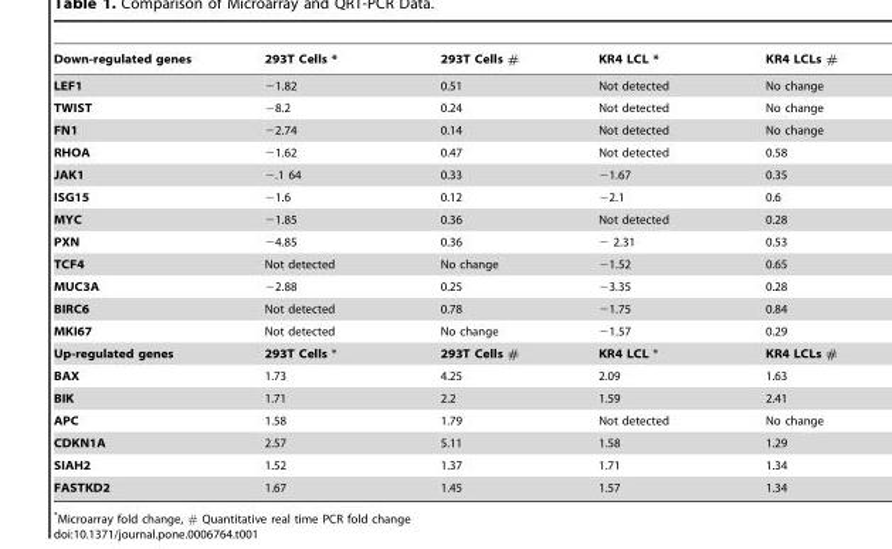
<table><thead><tr><td>Down-regulated genes</td><td>293T Cells *</td><td>293T Cells #</td><td>KR4 LCL *</td><td>KR4 LCLs #</td></tr></thead><tbody><tr><td>LEF1</td><td>−1.82</td><td>0.51</td><td>Not detected</td><td>No change</td></tr><tr><td>TWIST</td><td>−8.2</td><td>0.24</td><td>Not detected</td><td>No change</td></tr><tr><td>FN1</td><td>−2.74</td><td>0.14</td><td>Not detected</td><td>No change</td></tr><tr><td>RHOA</td><td>−1.62</td><td>0.47</td><td>Not detected</td><td>0.58</td></tr><tr><td>JAK1</td><td>−.1 64</td><td>0.33</td><td>−1.67</td><td>0.35</td></tr><tr><td>ISG15</td><td>−1.6</td><td>0.12</td><td>−2.1</td><td>0.6</td></tr><tr><td>MYC</td><td>−1.85</td><td>0.36</td><td>Not detected</td><td>0.28</td></tr><tr><td>PXN</td><td>−4.85</td><td>0.36</td><td>− 2.31</td><td>0.53</td></tr><tr><td>TCF4</td><td>Not detected</td><td>No change</td><td>−1.52</td><td>0.65</td></tr><tr><td>MUC3A</td><td>−2.88</td><td>0.25</td><td>−3.35</td><td>0.28</td></tr><tr><td>BIRC6</td><td>Not detected</td><td>0.78</td><td>−1.75</td><td>0.84</td></tr><tr><td>MKI67</td><td>Not detected</td><td>No change</td><td>−1.57</td><td>0.29</td></tr><tr><td>Up-regulated genes</td><td>293T Cells *</td><td>293T Cells #</td><td>KR4 LCL *</td><td>KR4 LCLs #</td></tr><tr><td>BAX</td><td>1.73</td><td>4.25</td><td>2.09</td><td>1.63</td></tr><tr><td>BIK</td><td>1.71</td><td>2.2</td><td>1.59</td><td>2.41</td></tr><tr><td>APC</td><td>1.58</td><td>1.79</td><td>Not detected</td><td>No change</td></tr><tr><td>CDKN1A</td><td>2.57</td><td>5.11</td><td>1.58</td><td>1.29</td></tr><tr><td>SIAH2</td><td>1.52</td><td>1.37</td><td>1.71</td><td>1.34</td></tr><tr><td>FASTKD2</td><td>1.67</td><td>1.45</td><td>1.57</td><td>1.34</td></tr></tbody></table>